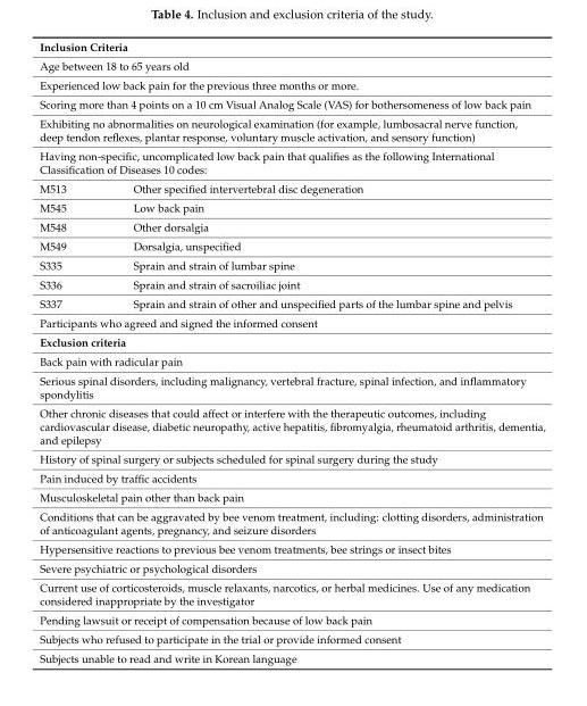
<table><tbody><tr><td colspan="2">Inclusion Criteria</td></tr><tr><td colspan="2">Age between 18 to 65 years old</td></tr><tr><td colspan="2">Experienced low back pain for the previous three months or more.</td></tr><tr><td colspan="2">Scoring more than 4 points on a 10 cm Visual Analog Scale (VAS) for bothersomeness of low back pain</td></tr><tr><td colspan="2">Exhibiting no abnormalities on neurological examination (for example, lumbosacral nerve function, deep tendon reflexes, plantar response, voluntary muscle activation, and sensory function)</td></tr><tr><td colspan="2">Having non-specific, uncomplicated low back pain that qualifies as the following International Classification of Diseases 10 codes:</td></tr><tr><td>M513</td><td>Other specified intervertebral disc degeneration</td></tr><tr><td>M545</td><td>Low back pain</td></tr><tr><td>M548</td><td>Other dorsalgia</td></tr><tr><td>M549</td><td>Dorsalgia, unspecified</td></tr><tr><td>S335</td><td>Sprain and strain of lumbar spine</td></tr><tr><td>S336</td><td>Sprain and strain of sacroiliac joint</td></tr><tr><td>S337</td><td>Sprain and strain of other and unspecified parts of the lumbar spine and pelvis</td></tr><tr><td colspan="2">Participants who agreed and signed the informed consent</td></tr><tr><td colspan="2">Exclusion criteria</td></tr><tr><td colspan="2">Back pain with radicular pain</td></tr><tr><td colspan="2">Serious spinal disorders, including malignancy, vertebral fracture, spinal infection, and inflammatory spondylitis</td></tr><tr><td colspan="2">Other chronic diseases that could affect or interfere with the therapeutic outcomes, including cardiovascular disease, diabetic neuropathy, active hepatitis, fibromyalgia, rheumatoid arthritis, dementia, and epilepsy</td></tr><tr><td colspan="2">History of spinal surgery or subjects scheduled for spinal surgery during the study</td></tr><tr><td colspan="2">Pain induced by traffic accidents</td></tr><tr><td colspan="2">Musculoskeletal pain other than back pain</td></tr><tr><td colspan="2">Conditions that can be aggravated by bee venom treatment, including: clotting disorders, administration of anticoagulant agents, pregnancy, and seizure disorders</td></tr><tr><td colspan="2">Hypersensitive reactions to previous bee venom treatments, bee strings or insect bites</td></tr><tr><td colspan="2">Severe psychiatric or psychological disorders</td></tr><tr><td colspan="2">Current use of corticosteroids, muscle relaxants, narcotics, or herbal medicines. Use of any medication considered inappropriate by the investigator</td></tr><tr><td colspan="2">Pending lawsuit or receipt of compensation because of low back pain</td></tr><tr><td colspan="2">Subjects who refused to participate in the trial or provide informed consent</td></tr><tr><td colspan="2">Subjects unable to read and write in Korean language</td></tr></tbody></table>